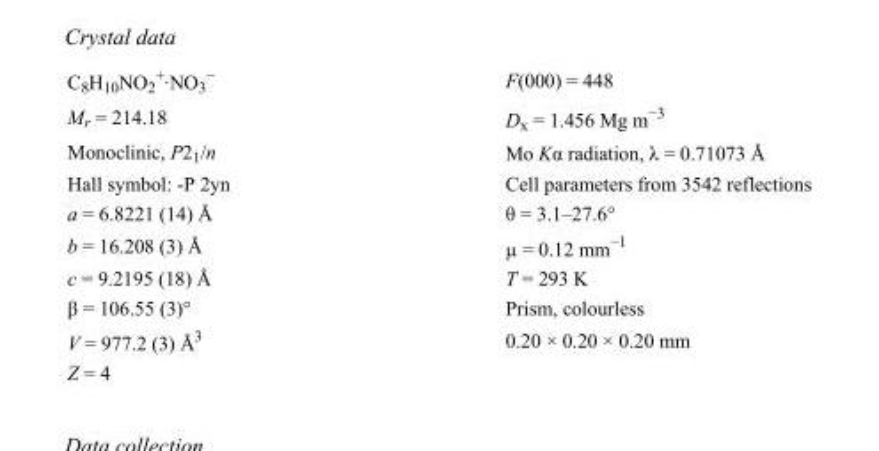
<table><tbody><tr><td>C<sub>8</sub>H<sub>10</sub>NO<sub>2</sub> <sup>+</sup>·NO<sub>3</sub> <sup>−</sup></td><td>F(000) = 448</td></tr><tr><td>M<sub>r</sub> = 214.18</td><td>D<sub>x</sub> = 1.456 Mg m<sup>−3</sup></td></tr><tr><td>Monoclinic, P2<sub>1</sub>/n</td><td>Mo Kα radiation, λ = 0.71073 Å</td></tr><tr><td>Hall symbol: -P 2yn</td><td>Cell parameters from 3542 reflections</td></tr><tr><td>a = 6.8221 (14) Å</td><td>θ = 3.1–27.6°</td></tr><tr><td>b = 16.208 (3) Å</td><td>µ = 0.12 mm<sup>−1</sup></td></tr><tr><td>c = 9.2195 (18) Å</td><td>T = 293 K</td></tr><tr><td>β = 106.55 (3)°</td><td>Prism, colourless</td></tr><tr><td>V = 977.2 (3) Å<sup>3</sup></td><td>0.20 × 0.20 × 0.20 mm</td></tr><tr><td>Z = 4</td><td></td></tr></tbody></table>